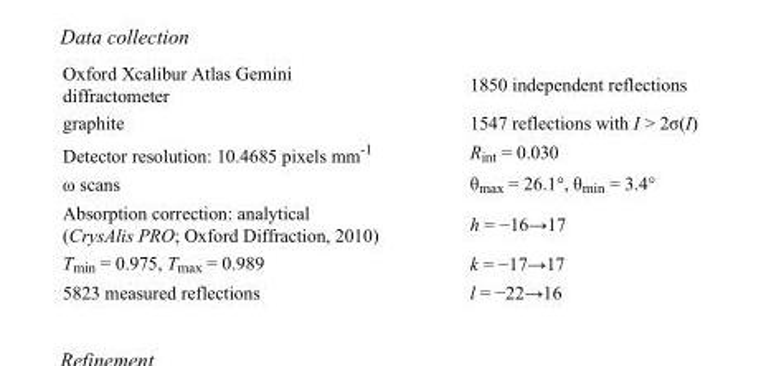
<table><tbody><tr><td>Oxford Xcalibur Atlas Gemini diffractometer</td><td>1850 independent reflections</td></tr><tr><td>graphite</td><td>1547 reflections with I &gt; 2σ(I)</td></tr><tr><td>Detector resolution: 10.4685 pixels mm<sup>-1</sup></td><td>R<sub>int</sub> = 0.030</td></tr><tr><td>ω scans</td><td>θ<sub>max</sub> = 26.1°, θ<sub>min</sub> = 3.4°</td></tr><tr><td>Absorption correction: analytical (CrysAlis PRO; Oxford Diffraction, 2010)</td><td>h = −16→17</td></tr><tr><td>T<sub>min</sub> = 0.975, T<sub>max</sub> = 0.989</td><td>k = −17→17</td></tr><tr><td>5823 measured reflections</td><td>l = −22→16</td></tr></tbody></table>